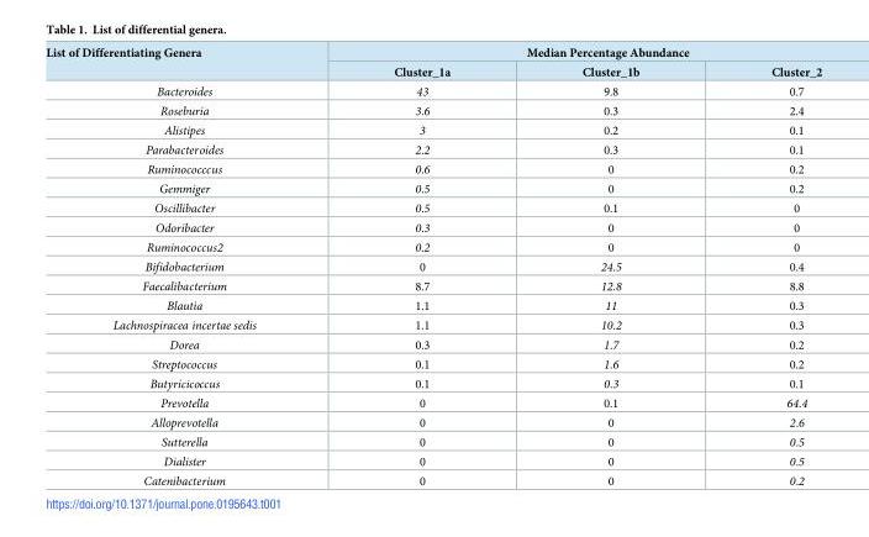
<table><thead><tr><td rowspan="2">List of Differentiating Genera</td><td colspan="3">Median Percentage Abundance</td></tr><tr><td>Cluster_1a</td><td>Cluster_1b</td><td>Cluster_2</td></tr></thead><tbody><tr><td>Bacteroides</td><td>43</td><td>9.8</td><td>0.7</td></tr><tr><td>Roseburia</td><td>3.6</td><td>0.3</td><td>2.4</td></tr><tr><td>Alistipes</td><td>3</td><td>0.2</td><td>0.1</td></tr><tr><td>Parabacteroides</td><td>2.2</td><td>0.3</td><td>0.1</td></tr><tr><td>Ruminococccus</td><td>0.6</td><td>0</td><td>0.2</td></tr><tr><td>Gemmiger</td><td>0.5</td><td>0</td><td>0.2</td></tr><tr><td>Oscillibacter</td><td>0.5</td><td>0.1</td><td>0</td></tr><tr><td>Odoribacter</td><td>0.3</td><td>0</td><td>0</td></tr><tr><td>Ruminococcus2</td><td>0.2</td><td>0</td><td>0</td></tr><tr><td>Bifidobacterium</td><td>0</td><td>24.5</td><td>0.4</td></tr><tr><td>Faecalibacterium</td><td>8.7</td><td>12.8</td><td>8.8</td></tr><tr><td>Blautia</td><td>1.1</td><td>11</td><td>0.3</td></tr><tr><td>Lachnospiracea incertae sedis</td><td>1.1</td><td>10.2</td><td>0.3</td></tr><tr><td>Dorea</td><td>0.3</td><td>1.7</td><td>0.2</td></tr><tr><td>Streptococcus</td><td>0.1</td><td>1.6</td><td>0.2</td></tr><tr><td>Butyricicoccus</td><td>0.1</td><td>0.3</td><td>0.1</td></tr><tr><td>Prevotella</td><td>0</td><td>0.1</td><td>64.4</td></tr><tr><td>Alloprevotella</td><td>0</td><td>0</td><td>2.6</td></tr><tr><td>Sutterella</td><td>0</td><td>0</td><td>0.5</td></tr><tr><td>Dialister</td><td>0</td><td>0</td><td>0.5</td></tr><tr><td>Catenibacterium</td><td>0</td><td>0</td><td>0.2</td></tr></tbody></table>